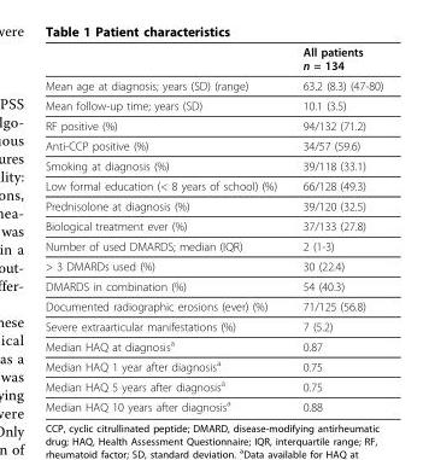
<table><thead><tr><td></td><td>All patients n = 134</td></tr></thead><tbody><tr><td>Mean age at diagnosis; years (SD) (range)</td><td>63.2 (8.3) (47-80)</td></tr><tr><td>Mean follow-up time; years (SD)</td><td>10.1 (3.5)</td></tr><tr><td>RF positive (%)</td><td>94/132 (71.2)</td></tr><tr><td>Anti-CCP positive (%)</td><td>34/57 (59.6)</td></tr><tr><td>Smoking at diagnosis (%)</td><td>39/118 (33.1)</td></tr><tr><td>Low formal education (&lt; 8 years of school) (%)</td><td>66/128 (49.3)</td></tr><tr><td>Prednisolone at diagnosis (%)</td><td>39/120 (32.5)</td></tr><tr><td>Biological treatment ever (%)</td><td>37/133 (27.8)</td></tr><tr><td>Number of used DMARDS; median (IQR)</td><td>2 (1-3)</td></tr><tr><td>&gt; 3 DMARDs used (%)</td><td>30 (22.4)</td></tr><tr><td>DMARDS in combination (%)</td><td>54 (40.3)</td></tr><tr><td>Documented radiographic erosions (ever) (%)</td><td>71/125 (56.8)</td></tr><tr><td>Severe extraarticular manifestations (%)</td><td>7 (5.2)</td></tr><tr><td>Median HAQ at diagnosis<sup>a</sup></td><td>0.87</td></tr><tr><td>Median HAQ 1 year after diagnosis<sup>a</sup></td><td>0.75</td></tr><tr><td>Median HAQ 5 years after diagnosis<sup>a</sup></td><td>0.75</td></tr><tr><td>Median HAQ 10 years after diagnosis<sup>a</sup></td><td>0.88</td></tr></tbody></table>